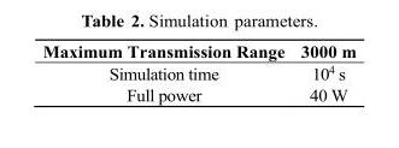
<table><thead><tr><td>Maximum Transmission Range</td><td>3000 m</td></tr></thead><tbody><tr><td>Simulation time</td><td>10<sup>4</sup> s</td></tr><tr><td>Full power</td><td>40 W</td></tr></tbody></table>